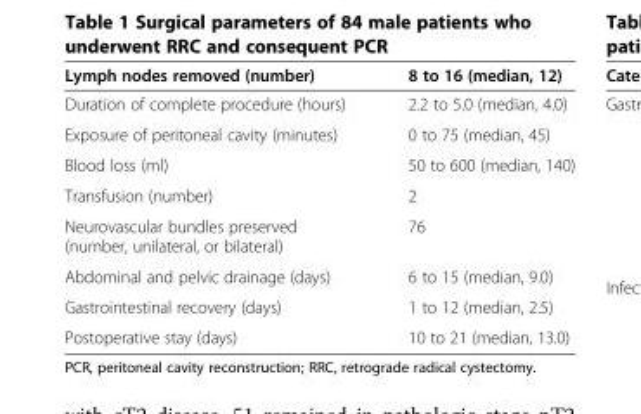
<table><thead><tr><td>Lymph nodes removed (number)</td><td>8 to 16 (median, 12)</td></tr></thead><tbody><tr><td>Duration of complete procedure (hours)</td><td>2.2 to 5.0 (median, 4.0)</td></tr><tr><td>Exposure of peritoneal cavity (minutes)</td><td>0 to 75 (median, 45)</td></tr><tr><td>Blood loss (ml)</td><td>50 to 600 (median, 140)</td></tr><tr><td>Transfusion (number)</td><td>2</td></tr><tr><td>Neurovascular bundles preserved (number, unilateral, or bilateral)</td><td>76</td></tr><tr><td>Abdominal and pelvic drainage (days)</td><td>6 to 15 (median, 9.0)</td></tr><tr><td>Gastrointestinal recovery (days)</td><td>1 to 12 (median, 2.5)</td></tr><tr><td>Postoperative stay (days)</td><td>10 to 21 (median, 13.0)</td></tr></tbody></table>